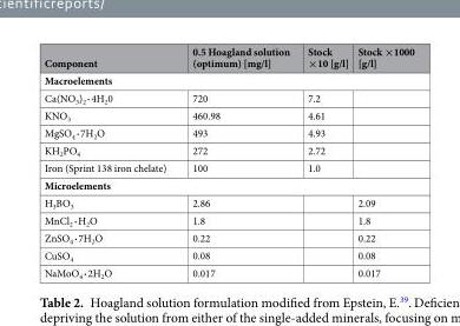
<table><thead><tr><td>Component</td><td>0.5 Hoagland solution (optimum) [mg/l]</td><td>Stock ×10 [g/l]</td><td>Stock ×1000 [g/l]</td></tr></thead><tbody><tr><td colspan="4">Macroelements</td></tr><tr><td>Ca(NO<sub>3</sub>)<sub>2</sub> · 4H<sub>2</sub>0</td><td>720</td><td>7.2</td><td></td></tr><tr><td>KNO<sub>3</sub></td><td>460.98</td><td>4.61</td><td></td></tr><tr><td>MgSO<sub>4</sub> · 7H<sub>2</sub>O</td><td>493</td><td>4.93</td><td></td></tr><tr><td>KH<sub>2</sub>PO<sub>4</sub></td><td>272</td><td>2.72</td><td></td></tr><tr><td>Iron (Sprint 138 iron chelate)</td><td>100</td><td>1.0</td><td></td></tr><tr><td colspan="4">Microelements</td></tr><tr><td>H<sub>3</sub>BO<sub>3</sub></td><td>2.86</td><td></td><td>2.09</td></tr><tr><td>MnCl<sub>2</sub> · H<sub>2</sub>O</td><td>1.8</td><td></td><td>1.8</td></tr><tr><td>ZnSO<sub>4</sub> · 7H<sub>2</sub>O</td><td>0.22</td><td></td><td>0.22</td></tr><tr><td>CuSO<sub>4</sub></td><td>0.08</td><td></td><td>0.08</td></tr><tr><td>NaMoO<sub>4</sub> · 2H<sub>2</sub>O</td><td>0.017</td><td></td><td>0.017</td></tr></tbody></table>